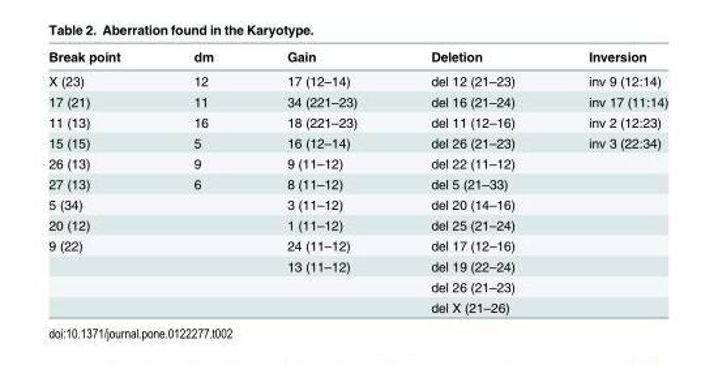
<table><thead><tr><td>Break point</td><td>dm</td><td>Gain</td><td>Deletion</td><td>Inversion</td></tr></thead><tbody><tr><td>X (23)</td><td>12</td><td>17 (12–14)</td><td>del 12 (21–23)</td><td>inv 9 (12:14)</td></tr><tr><td>17 (21)</td><td>11</td><td>34 (221–23)</td><td>del 16 (21–24)</td><td>inv 17 (11:14)</td></tr><tr><td>11 (13)</td><td>16</td><td>18 (221–23)</td><td>del 11 (12–16)</td><td>inv 2 (12:23)</td></tr><tr><td>15 (15)</td><td>5</td><td>16 (12–14)</td><td>del 26 (21–23)</td><td>inv 3 (22:34)</td></tr><tr><td>26 (13)</td><td>9</td><td>9 (11–12)</td><td>del 22 (11–12)</td><td></td></tr><tr><td>27 (13)</td><td>6</td><td>8 (11–12)</td><td>del 5 (21–33)</td><td></td></tr><tr><td>5 (34)</td><td></td><td>3 (11–12)</td><td>del 20 (14–16)</td><td></td></tr><tr><td>20 (12)</td><td></td><td>1 (11–12)</td><td>del 25 (21–24)</td><td></td></tr><tr><td rowspan="4">9 (22)</td><td></td><td>24 (11–12)</td><td>del 17 (12–16)</td><td></td></tr><tr><td></td><td>13 (11–12)</td><td>del 19 (22–24)</td><td></td></tr><tr><td></td><td></td><td>del 26 (21–23)</td><td></td></tr><tr><td></td><td></td><td>del X (21–26)</td><td></td></tr></tbody></table>